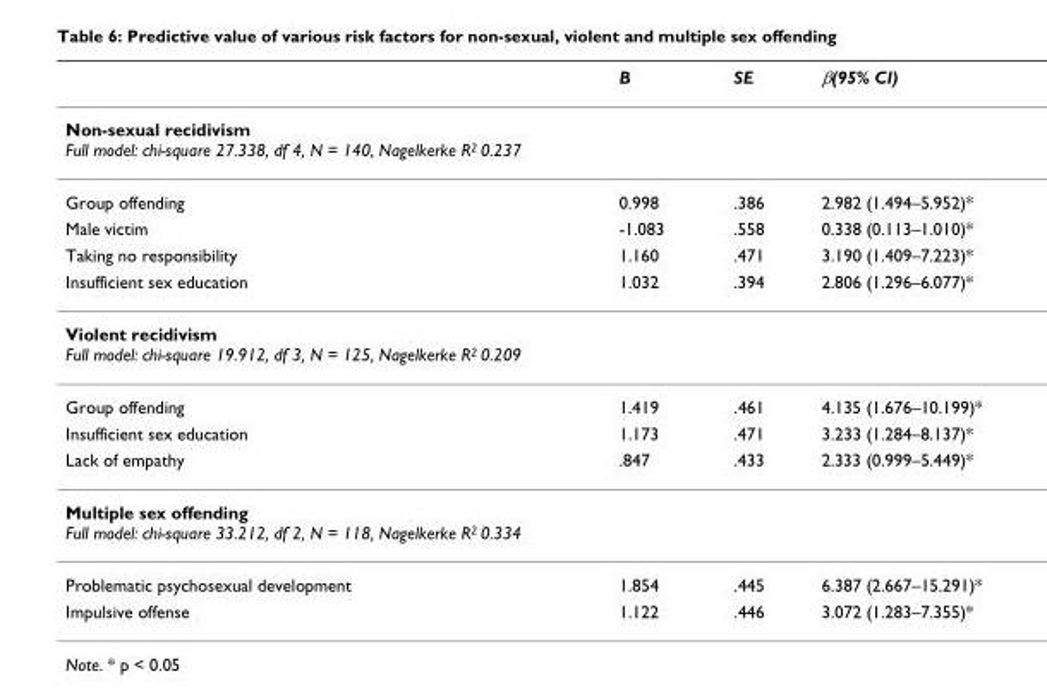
<table><thead><tr><td></td><td>B</td><td>SE</td><td>β(95% CI)</td></tr></thead><tbody><tr><td colspan="4">Non-sexual recidivism Full model: chi-square 27.338, df 4, N = 140, Nagelkerke R<sup>2</sup> 0.237</td></tr><tr><td>Group offending</td><td>0.998</td><td>.386</td><td>2.982 (1.494–5.952)*</td></tr><tr><td>Male victim</td><td>-1.083</td><td>.558</td><td>0.338 (0.113–1.010)*</td></tr><tr><td>Taking no responsibility</td><td>1.160</td><td>.471</td><td>3.190 (1.409–7.223)*</td></tr><tr><td>Insufficient sex education</td><td>1.032</td><td>.394</td><td>2.806 (1.296–6.077)*</td></tr><tr><td colspan="4">Violent recidivism Full model: chi-square 19.912, df 3, N = 125, Nagelkerke R<sup>2</sup> 0.209</td></tr><tr><td>Group offending</td><td>1.419</td><td>.461</td><td>4.135 (1.676–10.199)*</td></tr><tr><td>Insufficient sex education</td><td>1.173</td><td>.471</td><td>3.233 (1.284–8.137)*</td></tr><tr><td>Lack of empathy</td><td>.847</td><td>.433</td><td>2.333 (0.999–5.449)*</td></tr><tr><td colspan="4">Multiple sex offending Full model: chi-square 33.212, df 2, N = 118, Nagelkerke R<sup>2</sup> 0.334</td></tr><tr><td>Problematic psychosexual development</td><td>1.854</td><td>.445</td><td>6.387 (2.667–15.291)*</td></tr><tr><td>Impulsive offense</td><td>1.122</td><td>.446</td><td>3.072 (1.283–7.355)*</td></tr></tbody></table>